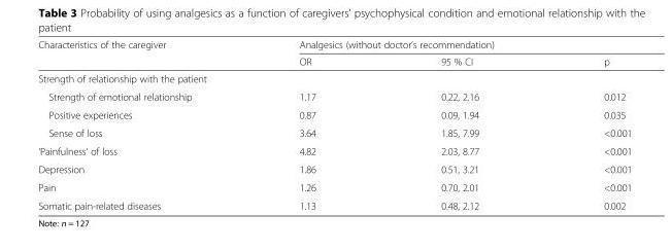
<table><thead><tr><td rowspan="2">Characteristics of the caregiver</td><td colspan="3">Analgesics (without doctor’s recommendation)</td></tr><tr><td>OR</td><td>95 % CI</td><td>p</td></tr></thead><tbody><tr><td colspan="4">Strength of relationship with the patient</td></tr><tr><td>Strength of emotional relationship</td><td>1.17</td><td>0.22, 2.16</td><td>0.012</td></tr><tr><td>Positive experiences</td><td>0.87</td><td>0.09, 1.94</td><td>0.035</td></tr><tr><td>Sense of loss</td><td>3.64</td><td>1.85, 7.99</td><td>&lt;0.001</td></tr><tr><td>‘Painfulness’ of loss</td><td>4.82</td><td>2.03, 8.77</td><td>&lt;0.001</td></tr><tr><td>Depression</td><td>1.86</td><td>0.51, 3.21</td><td>&lt;0.001</td></tr><tr><td>Pain</td><td>1.26</td><td>0.70, 2.01</td><td>&lt;0.001</td></tr><tr><td>Somatic pain-related diseases</td><td>1.13</td><td>0.48, 2.12</td><td>0.002</td></tr></tbody></table>